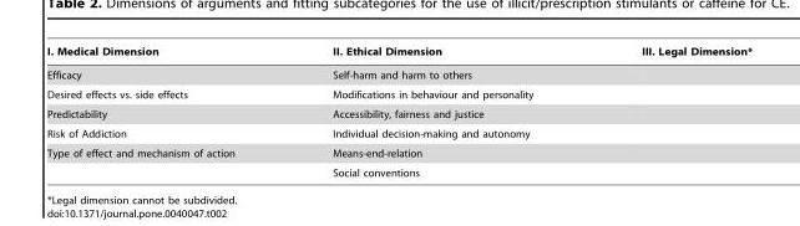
<table><thead><tr><td>I. Medical Dimension</td><td>II. Ethical Dimension</td><td>III. Legal Dimension*</td></tr></thead><tbody><tr><td>Efficacy</td><td>Self-harm and harm to others</td><td></td></tr><tr><td>Desired effects vs. side effects</td><td>Modifications in behaviour and personality</td><td></td></tr><tr><td>Predictability</td><td>Accessibility, fairness and justice</td><td></td></tr><tr><td>Risk of Addiction</td><td>Individual decision-making and autonomy</td><td></td></tr><tr><td rowspan="2">Type of effect and mechanism of action</td><td>Means-end-relation</td><td></td></tr><tr><td>Social conventions</td><td></td></tr></tbody></table>